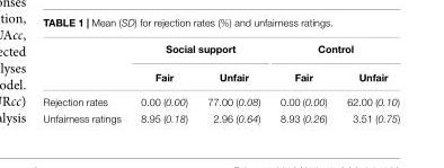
<table><thead><tr><td rowspan="2"></td><td colspan="2">Social support</td><td colspan="2">Control</td></tr><tr><td>Fair</td><td>Unfair</td><td>Fair</td><td>Unfair</td></tr></thead><tbody><tr><td>Rejection rates</td><td>0.00 (0.00)</td><td>77.00 (0.08)</td><td>0.00 (0.00)</td><td>62.00 (0.10)</td></tr><tr><td>Unfairness ratings</td><td>8.95 (0.18)</td><td>2.96 (0.64)</td><td>8.93 (0.26)</td><td>3.51 (0.75)</td></tr></tbody></table>